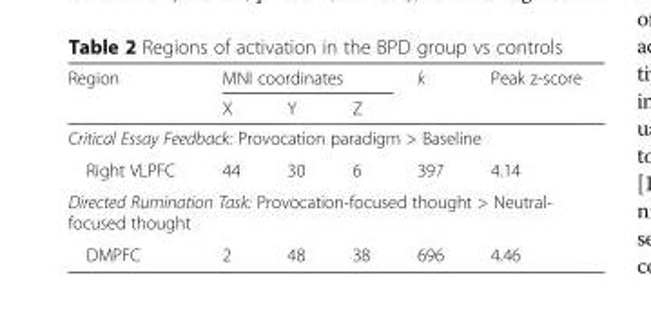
<table><thead><tr><td rowspan="2">Region</td><td colspan="3">MNI coordinates</td><td rowspan="2">k</td><td rowspan="2">Peak z-score</td></tr><tr><td>X</td><td>Y</td><td>Z</td></tr></thead><tbody><tr><td colspan="6">Critical Essay Feedback: Provocation paradigm &gt; Baseline</td></tr><tr><td>Right VLPFC</td><td>44</td><td>30</td><td>6</td><td>397</td><td>4.14</td></tr><tr><td colspan="6">Directed Rumination Task: Provocation-focused thought &gt; Neutral- focused thought</td></tr><tr><td>DMPFC</td><td>2</td><td>48</td><td>38</td><td>696</td><td>4.46</td></tr></tbody></table>